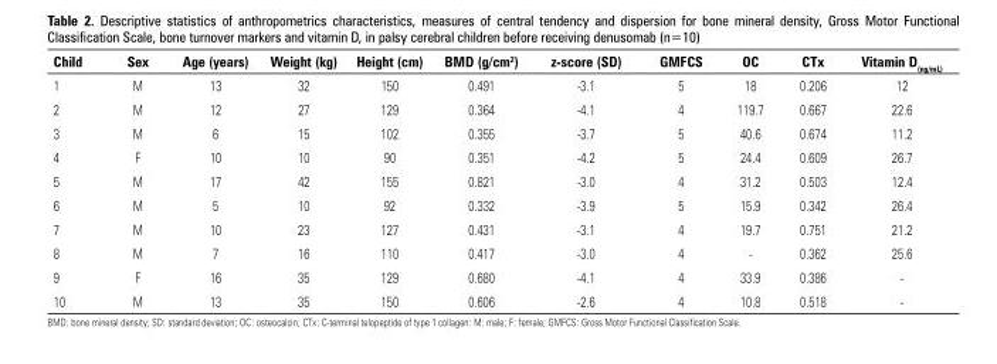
<table><thead><tr><td>Child</td><td>Sex</td><td>Age (years)</td><td>Weight (kg)</td><td>Height (cm)</td><td>BMD (g/cm<sup>2</sup>)</td><td>z-score (SD)</td><td>GMFCS</td><td>OC</td><td>CTx</td><td>Vitamin D<sub>(ng/mL)</sub></td></tr></thead><tbody><tr><td>1</td><td>M</td><td>13</td><td>32</td><td>150</td><td>0.491</td><td>-3.1</td><td>5</td><td>18</td><td>0.206</td><td>12</td></tr><tr><td>2</td><td>M</td><td>12</td><td>27</td><td>129</td><td>0.364</td><td>-4.1</td><td>4</td><td>119.7</td><td>0.667</td><td>22.6</td></tr><tr><td>3</td><td>M</td><td>6</td><td>15</td><td>102</td><td>0.355</td><td>-3.7</td><td>5</td><td>40.6</td><td>0.674</td><td>11.2</td></tr><tr><td>4</td><td>F</td><td>10</td><td>10</td><td>90</td><td>0.351</td><td>-4.2</td><td>5</td><td>24.4</td><td>0.609</td><td>26.7</td></tr><tr><td>5</td><td>M</td><td>17</td><td>42</td><td>155</td><td>0.821</td><td>-3.0</td><td>4</td><td>31.2</td><td>0.503</td><td>12.4</td></tr><tr><td>6</td><td>M</td><td>5</td><td>10</td><td>92</td><td>0.332</td><td>-3.9</td><td>5</td><td>15.9</td><td>0.342</td><td>26.4</td></tr><tr><td>7</td><td>M</td><td>10</td><td>23</td><td>127</td><td>0.431</td><td>-3.1</td><td>4</td><td>19.7</td><td>0.751</td><td>21.2</td></tr><tr><td>8</td><td>M</td><td>7</td><td>16</td><td>110</td><td>0.417</td><td>-3.0</td><td>4</td><td>-</td><td>0.362</td><td>25.6</td></tr><tr><td>9</td><td>F</td><td>16</td><td>35</td><td>129</td><td>0.680</td><td>-4.1</td><td>4</td><td>33.9</td><td>0.386</td><td>-</td></tr><tr><td>10</td><td>M</td><td>13</td><td>35</td><td>150</td><td>0.606</td><td>-2.6</td><td>4</td><td>10.8</td><td>0.518</td><td>-</td></tr></tbody></table>